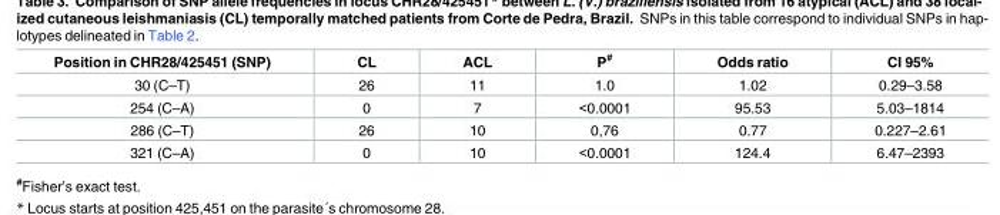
<table><thead><tr><td>Position in CHR28/425451 (SNP)</td><td>CL</td><td>ACL</td><td>P<sup>#</sup></td><td>Odds ratio</td><td>CI 95%</td></tr></thead><tbody><tr><td>30 (C–T)</td><td>26</td><td>11</td><td>1.0</td><td>1.02</td><td>0.29–3.58</td></tr><tr><td>254 (C–A)</td><td>0</td><td>7</td><td>&lt;0.0001</td><td>95.53</td><td>5.03–1814</td></tr><tr><td>286 (C–T)</td><td>26</td><td>10</td><td>0,76</td><td>0.77</td><td>0.227–2.61</td></tr><tr><td>321 (C–A)</td><td>0</td><td>10</td><td>&lt;0.0001</td><td>124.4</td><td>6.47–2393</td></tr></tbody></table>